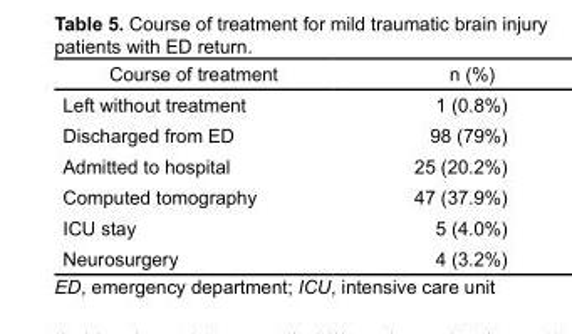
<table><thead><tr><td>Course of treatment</td><td>n (%)</td></tr></thead><tbody><tr><td>Left without treatment</td><td>1 (0.8%)</td></tr><tr><td>Discharged from ED</td><td>98 (79%)</td></tr><tr><td>Admitted to hospital</td><td>25 (20.2%)</td></tr><tr><td>Computed tomography</td><td>47 (37.9%)</td></tr><tr><td>ICU stay</td><td>5 (4.0%)</td></tr><tr><td>Neurosurgery</td><td>4 (3.2%)</td></tr></tbody></table>